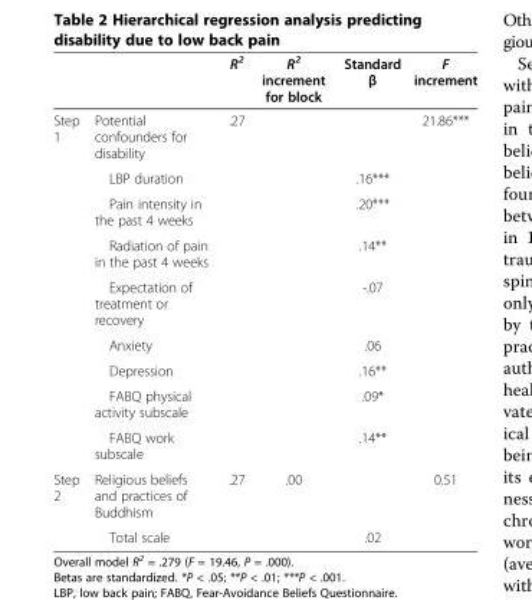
<table><thead><tr><td></td><td></td><td>R<sup>2</sup></td><td>R<sup>2</sup> increment for block</td><td>Standard β</td><td>F increment</td></tr></thead><tbody><tr><td rowspan="9">Step 1</td><td>Potential confounders for disability</td><td>.27</td><td></td><td></td><td>21.86***</td></tr><tr><td>LBP duration</td><td></td><td></td><td>.16***</td><td></td></tr><tr><td>Pain intensity in the past 4 weeks</td><td></td><td></td><td>.20***</td><td></td></tr><tr><td>Radiation of pain in the past 4 weeks</td><td></td><td></td><td>.14**</td><td></td></tr><tr><td>Expectation of treatment or recovery</td><td></td><td></td><td>-.07</td><td></td></tr><tr><td>Anxiety</td><td></td><td></td><td>.06</td><td></td></tr><tr><td>Depression</td><td></td><td></td><td>.16**</td><td></td></tr><tr><td>FABQ physical activity subscale</td><td></td><td></td><td>.09*</td><td></td></tr><tr><td>FABQ work subscale</td><td></td><td></td><td>.14**</td><td></td></tr><tr><td rowspan="2">Step 2</td><td>Religious beliefs and practices of Buddhism</td><td>.27</td><td>.00</td><td></td><td>0.51</td></tr><tr><td>Total scale</td><td></td><td></td><td>.02</td><td></td></tr></tbody></table>